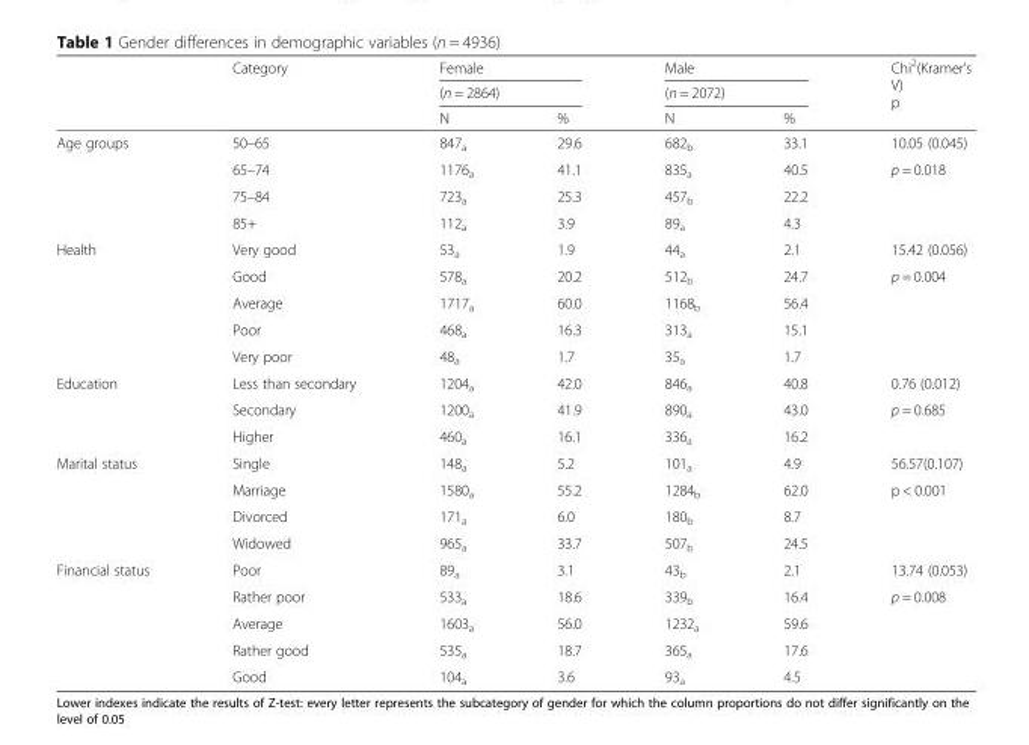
<table><thead><tr><td rowspan="3"></td><td rowspan="3">Category</td><td rowspan="2" colspan="2">Female (n = 2864)</td><td rowspan="2" colspan="2">Male (n = 2072)</td><td rowspan="3">Chi<sup>2</sup>(Kramer’s V) p</td></tr><tr></tr><tr><td>N</td><td>%</td><td>N</td><td>%</td></tr></thead><tbody><tr><td rowspan="4">Age groups</td><td>50–65</td><td>847<sub>a</sub></td><td>29.6</td><td>682<sub>b</sub></td><td>33.1</td><td>10.05 (0.045)</td></tr><tr><td>65–74</td><td>1176<sub>a</sub></td><td>41.1</td><td>835<sub>a</sub></td><td>40.5</td><td>p = 0.018</td></tr><tr><td>75–84</td><td>723<sub>a</sub></td><td>25.3</td><td>457<sub>b</sub></td><td>22.2</td><td></td></tr><tr><td>85+</td><td>112<sub>a</sub></td><td>3.9</td><td>89<sub>a</sub></td><td>4.3</td><td></td></tr><tr><td rowspan="5">Health</td><td>Very good</td><td>53<sub>a</sub></td><td>1.9</td><td>44<sub>a</sub></td><td>2.1</td><td>15.42 (0.056)</td></tr><tr><td>Good</td><td>578<sub>a</sub></td><td>20.2</td><td>512<sub>b</sub></td><td>24.7</td><td>p = 0.004</td></tr><tr><td>Average</td><td>1717<sub>a</sub></td><td>60.0</td><td>1168<sub>b</sub></td><td>56.4</td><td></td></tr><tr><td>Poor</td><td>468<sub>a</sub></td><td>16.3</td><td>313<sub>a</sub></td><td>15.1</td><td></td></tr><tr><td>Very poor</td><td>48<sub>a</sub></td><td>1.7</td><td>35<sub>a</sub></td><td>1.7</td><td></td></tr><tr><td rowspan="3">Education</td><td>Less than secondary</td><td>1204<sub>a</sub></td><td>42.0</td><td>846<sub>a</sub></td><td>40.8</td><td>0.76 (0.012)</td></tr><tr><td>Secondary</td><td>1200<sub>a</sub></td><td>41.9</td><td>890<sub>a</sub></td><td>43.0</td><td>p = 0.685</td></tr><tr><td>Higher</td><td>460<sub>a</sub></td><td>16.1</td><td>336<sub>a</sub></td><td>16.2</td><td></td></tr><tr><td rowspan="4">Marital status</td><td>Single</td><td>148<sub>a</sub></td><td>5.2</td><td>101<sub>a</sub></td><td>4.9</td><td>56.57(0.107)</td></tr><tr><td>Marriage</td><td>1580<sub>a</sub></td><td>55.2</td><td>1284<sub>b</sub></td><td>62.0</td><td>p &lt; 0.001</td></tr><tr><td>Divorced</td><td>171<sub>a</sub></td><td>6.0</td><td>180<sub>b</sub></td><td>8.7</td><td></td></tr><tr><td>Widowed</td><td>965<sub>a</sub></td><td>33.7</td><td>507<sub>b</sub></td><td>24.5</td><td></td></tr><tr><td rowspan="5">Financial status</td><td>Poor</td><td>89<sub>a</sub></td><td>3.1</td><td>43<sub>b</sub></td><td>2.1</td><td>13.74 (0.053)</td></tr><tr><td>Rather poor</td><td>533<sub>a</sub></td><td>18.6</td><td>339<sub>b</sub></td><td>16.4</td><td>p = 0.008</td></tr><tr><td>Average</td><td>1603<sub>a</sub></td><td>56.0</td><td>1232<sub>a</sub></td><td>59.6</td><td></td></tr><tr><td>Rather good</td><td>535<sub>a</sub></td><td>18.7</td><td>365<sub>a</sub></td><td>17.6</td><td></td></tr><tr><td>Good</td><td>104<sub>a</sub></td><td>3.6</td><td>93<sub>a</sub></td><td>4.5</td><td></td></tr></tbody></table>